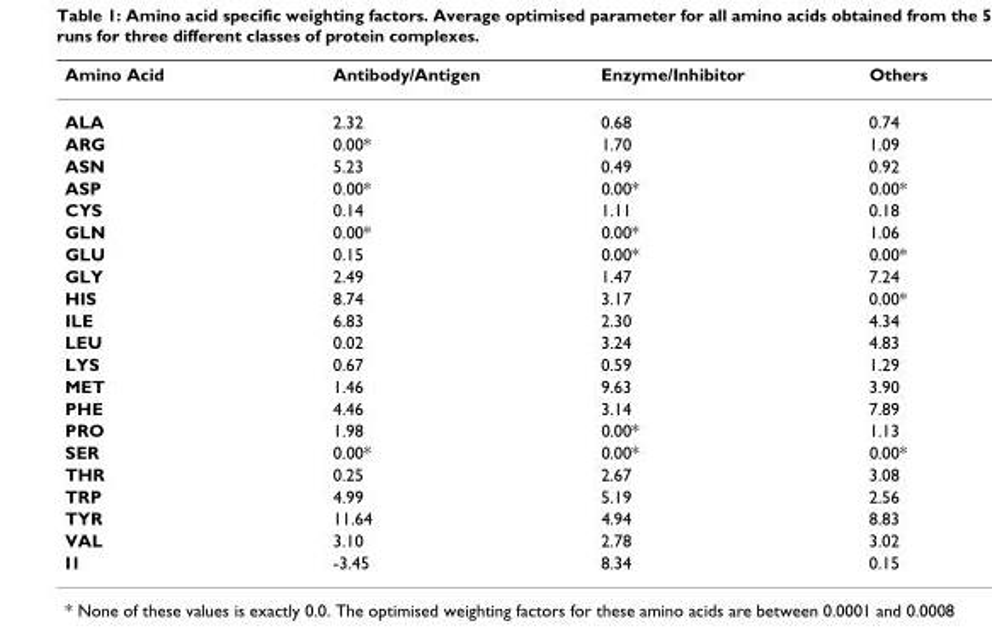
<table><thead><tr><td>Amino Acid</td><td>Antibody/Antigen</td><td>Enzyme/Inhibitor</td><td>Others</td></tr></thead><tbody><tr><td>ALA</td><td>2.32</td><td>0.68</td><td>0.74</td></tr><tr><td>ARG</td><td>0.00*</td><td>1.70</td><td>1.09</td></tr><tr><td>ASN</td><td>5.23</td><td>0.49</td><td>0.92</td></tr><tr><td>ASP</td><td>0.00*</td><td>0.00*</td><td>0.00*</td></tr><tr><td>CYS</td><td>0.14</td><td>1.11</td><td>0.18</td></tr><tr><td>GLN</td><td>0.00*</td><td>0.00*</td><td>1.06</td></tr><tr><td>GLU</td><td>0.15</td><td>0.00*</td><td>0.00*</td></tr><tr><td>GLY</td><td>2.49</td><td>1.47</td><td>7.24</td></tr><tr><td>HIS</td><td>8.74</td><td>3.17</td><td>0.00*</td></tr><tr><td>ILE</td><td>6.83</td><td>2.30</td><td>4.34</td></tr><tr><td>LEU</td><td>0.02</td><td>3.24</td><td>4.83</td></tr><tr><td>LYS</td><td>0.67</td><td>0.59</td><td>1.29</td></tr><tr><td>MET</td><td>1.46</td><td>9.63</td><td>3.90</td></tr><tr><td>PHE</td><td>4.46</td><td>3.14</td><td>7.89</td></tr><tr><td>PRO</td><td>1.98</td><td>0.00*</td><td>1.13</td></tr><tr><td>SER</td><td>0.00*</td><td>0.00*</td><td>0.00*</td></tr><tr><td>THR</td><td>0.25</td><td>2.67</td><td>3.08</td></tr><tr><td>TRP</td><td>4.99</td><td>5.19</td><td>2.56</td></tr><tr><td>TYR</td><td>11.64</td><td>4.94</td><td>8.83</td></tr><tr><td>VAL</td><td>3.10</td><td>2.78</td><td>3.02</td></tr><tr><td>I1</td><td>-3.45</td><td>8.34</td><td>0.15</td></tr></tbody></table>